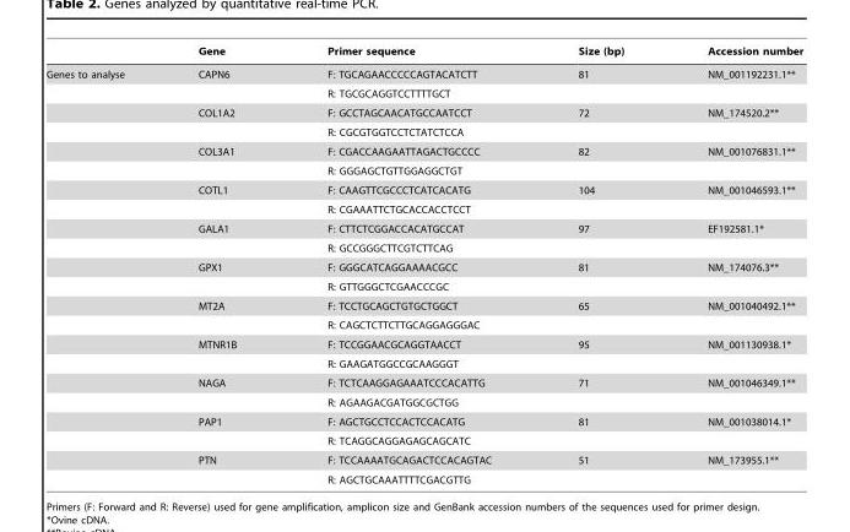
<table><thead><tr><td></td><td>Gene</td><td>Primer sequence</td><td>Size (bp)</td><td>Accession number</td></tr></thead><tbody><tr><td rowspan="22">Genes to analyse</td><td>CAPN6</td><td>F: TGCAGAACCCCCAGTACATCTT</td><td>81</td><td>NM_001192231.1**</td></tr><tr><td></td><td>R: TGCGCAGGTCCTTTTGCT</td><td></td><td></td></tr><tr><td>COL1A2</td><td>F: GCCTAGCAACATGCCAATCCT</td><td>72</td><td>NM_174520.2**</td></tr><tr><td></td><td>R: CGCGTGGTCCTCTATCTCCA</td><td></td><td></td></tr><tr><td>COL3A1</td><td>F: CGACCAAGAATTAGACTGCCCC</td><td>82</td><td>NM_001076831.1**</td></tr><tr><td></td><td>R: GGGAGCTGTTGGAGGCTGT</td><td></td><td></td></tr><tr><td>COTL1</td><td>F: CAAGTTCGCCCTCATCACATG</td><td>104</td><td>NM_001046593.1**</td></tr><tr><td></td><td>R: CGAAATTCTGCACCACCTCCT</td><td></td><td></td></tr><tr><td>GALA1</td><td>F: CTTCTCGGACCACATGCCAT</td><td>97</td><td>EF192581.1*</td></tr><tr><td></td><td>R: GCCGGGCTTCGTCTTCAG</td><td></td><td></td></tr><tr><td>GPX1</td><td>F: GGGCATCAGGAAAACGCC</td><td>81</td><td>NM_174076.3**</td></tr><tr><td></td><td>R: GTTGGGCTCGAACCCGC</td><td></td><td></td></tr><tr><td>MT2A</td><td>F: TCCTGCAGCTGTGCTGGCT</td><td>65</td><td>NM_001040492.1**</td></tr><tr><td></td><td>R: CAGCTCTTCTTGCAGGAGGGAC</td><td></td><td></td></tr><tr><td>MTNR1B</td><td>F: TCCGGAACGCAGGTAACCT</td><td>95</td><td>NM_001130938.1*</td></tr><tr><td></td><td>R: GAAGATGGCCGCAAGGGT</td><td></td><td></td></tr><tr><td>NAGA</td><td>F: TCTCAAGGAGAAATCCCACATTG</td><td>71</td><td>NM_001046349.1**</td></tr><tr><td></td><td>R: AGAAGACGATGGCGCTGG</td><td></td><td></td></tr><tr><td>PAP1</td><td>F: AGCTGCCTCCACTCCACATG</td><td>81</td><td>NM_001038014.1*</td></tr><tr><td></td><td>R: TCAGGCAGGAGAGCAGCATC</td><td></td><td></td></tr><tr><td>PTN</td><td>F: TCCAAAATGCAGACTCCACAGTAC</td><td>51</td><td>NM_173955.1**</td></tr><tr><td></td><td>R: AGCTGCAAATTTTCGACGTTG</td><td></td><td></td></tr></tbody></table>